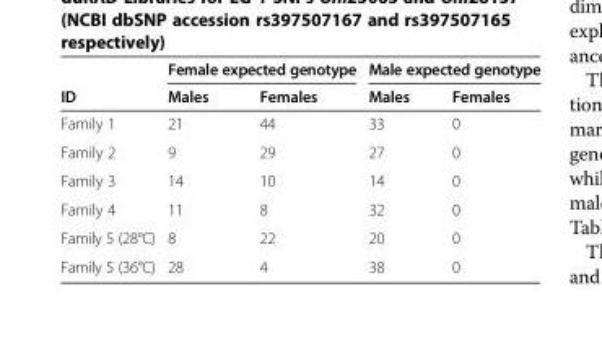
<table><thead><tr><td rowspan="2">ID</td><td colspan="2">Female expected genotype</td><td colspan="2">Male expected genotype</td></tr><tr><td>Males</td><td>Females</td><td>Males</td><td>Females</td></tr></thead><tbody><tr><td>Family 1</td><td>21</td><td>44</td><td>33</td><td>0</td></tr><tr><td>Family 2</td><td>9</td><td>29</td><td>27</td><td>0</td></tr><tr><td>Family 3</td><td>14</td><td>10</td><td>14</td><td>0</td></tr><tr><td>Family 4</td><td>11</td><td>8</td><td>32</td><td>0</td></tr><tr><td>Family 5 (28°C)</td><td>8</td><td>22</td><td>20</td><td>0</td></tr><tr><td>Family 5 (36°C)</td><td>28</td><td>4</td><td>38</td><td>0</td></tr></tbody></table>